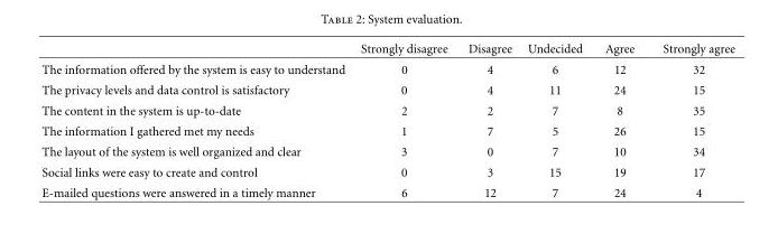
<table><thead><tr><td></td><td>Strongly disagree</td><td>Disagree</td><td>Undecided</td><td>Agree</td><td>Strongly agree</td></tr></thead><tbody><tr><td>The information offered by the system is easy to understand</td><td>0</td><td>4</td><td>6</td><td>12</td><td>32</td></tr><tr><td>The privacy levels and data control is satisfactory</td><td>0</td><td>4</td><td>11</td><td>24</td><td>15</td></tr><tr><td>The content in the system is up-to-date</td><td>2</td><td>2</td><td>7</td><td>8</td><td>35</td></tr><tr><td>The information I gathered met my needs</td><td>1</td><td>7</td><td>5</td><td>26</td><td>15</td></tr><tr><td>The layout of the system is well organized and clear</td><td>3</td><td>0</td><td>7</td><td>10</td><td>34</td></tr><tr><td>Social links were easy to create and control</td><td>0</td><td>3</td><td>15</td><td>19</td><td>17</td></tr><tr><td>E-mailed questions were answered in a timely manner</td><td>6</td><td>12</td><td>7</td><td>24</td><td>4</td></tr></tbody></table>